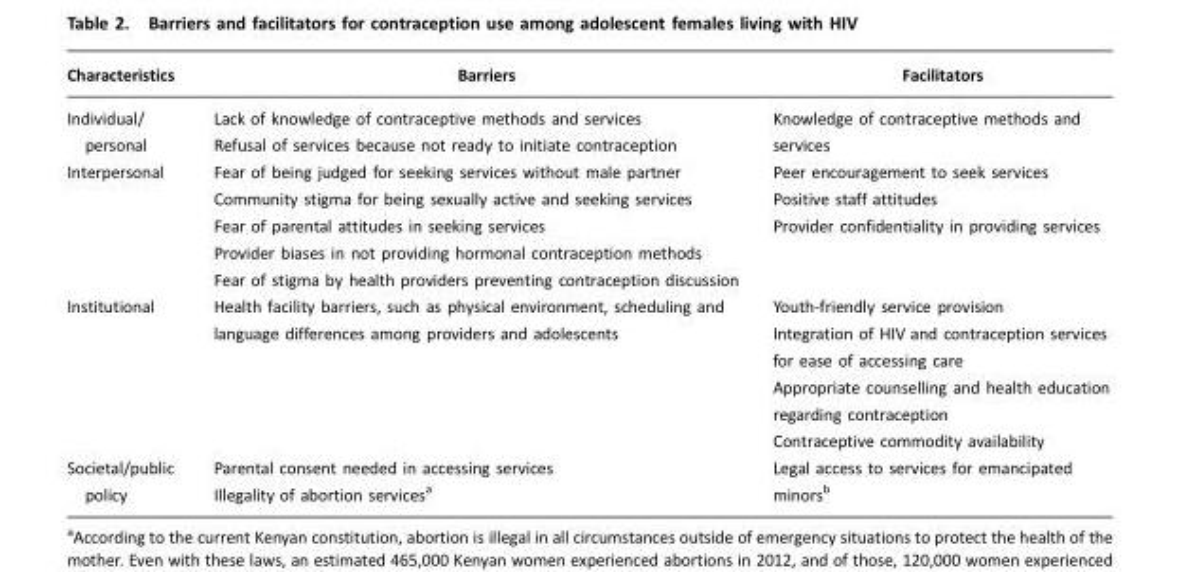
<table><thead><tr><td>Characteristics</td><td>Barriers</td><td>Facilitators</td></tr></thead><tbody><tr><td>Individual/ personal</td><td>Lack of knowledge of contraceptive methods and services Refusal of services because not ready to initiate contraception</td><td>Knowledge of contraceptive methods and services</td></tr><tr><td>Interpersonal</td><td>Fear of being judged for seeking services without male partner Community stigma for being sexually active and seeking services Fear of parental attitudes in seeking services Provider biases in not providing hormonal contraception methods Fear of stigma by health providers preventing contraception discussion</td><td>Peer encouragement to seek services Positive staff attitudes Provider confidentiality in providing services</td></tr><tr><td>Institutional</td><td>Health facility barriers, such as physical environment, scheduling and language differences among providers and adolescents</td><td>Youth-friendly service provision Integration of HIV and contraception services for ease of accessing care Appropriate counselling and health education regarding contraception Contraceptive commodity availability</td></tr><tr><td>Societal/public policy</td><td>Parental consent needed in accessing services Illegality of abortion services<sup>a</sup></td><td>Legal access to services for emancipated minors<sup>b</sup></td></tr></tbody></table>